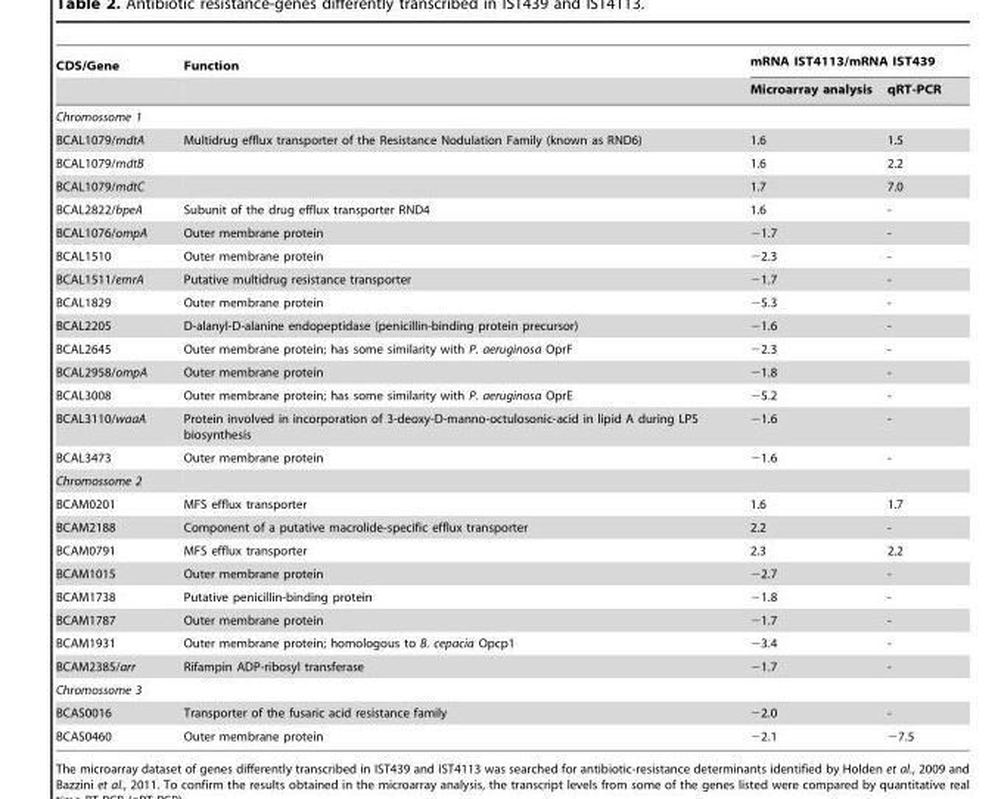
<table><thead><tr><td rowspan="2">CDS/Gene</td><td rowspan="2">Function</td><td colspan="2">mRNA IST4113/mRNA IST439</td></tr><tr><td>Microarray analysis</td><td>qRT-PCR</td></tr></thead><tbody><tr><td colspan="4">Chromossome 1</td></tr><tr><td>BCAL1079/mdtA</td><td>Multidrug efflux transporter of the Resistance Nodulation Family (known as RND6)</td><td>1.6</td><td>1.5</td></tr><tr><td>BCAL1079/mdtB</td><td></td><td>1.6</td><td>2.2</td></tr><tr><td>BCAL1079/mdtC</td><td></td><td>1.7</td><td>7.0</td></tr><tr><td>BCAL2822/bpeA</td><td>Subunit of the drug efflux transporter RND4</td><td>1.6</td><td>-</td></tr><tr><td>BCAL1076/ompA</td><td>Outer membrane protein</td><td>−1.7</td><td>-</td></tr><tr><td>BCAL1510</td><td>Outer membrane protein</td><td>−2.3</td><td>-</td></tr><tr><td>BCAL1511/emrA</td><td>Putative multidrug resistance transporter</td><td>−1.7</td><td>-</td></tr><tr><td>BCAL1829</td><td>Outer membrane protein</td><td>−5.3</td><td>-</td></tr><tr><td>BCAL2205</td><td>D-alanyl-D-alanine endopeptidase (penicillin-binding protein precursor)</td><td>−1.6</td><td>-</td></tr><tr><td>BCAL2645</td><td>Outer membrane protein; has some similarity with P. aeruginosa OprF</td><td>−2.3</td><td>-</td></tr><tr><td>BCAL2958/ompA</td><td>Outer membrane protein</td><td>−1.8</td><td>-</td></tr><tr><td>BCAL3008</td><td>Outer membrane protein; has some similarity with P. aeruginosa OprE</td><td>−5.2</td><td>-</td></tr><tr><td>BCAL3110/waaA</td><td>Protein involved in incorporation of 3-deoxy-D-manno-octulosonic-acid in lipid A during LPS biosynthesis</td><td>−1.6</td><td>-</td></tr><tr><td>BCAL3473</td><td>Outer membrane protein</td><td>−1.6</td><td>-</td></tr><tr><td colspan="4">Chromossome 2</td></tr><tr><td>BCAM0201</td><td>MFS efflux transporter</td><td>1.6</td><td>1.7</td></tr><tr><td>BCAM2188</td><td>Component of a putative macrolide-specific efflux transporter</td><td>2.2</td><td>-</td></tr><tr><td>BCAM0791</td><td>MFS efflux transporter</td><td>2.3</td><td>2.2</td></tr><tr><td>BCAM1015</td><td>Outer membrane protein</td><td>−2.7</td><td>-</td></tr><tr><td>BCAM1738</td><td>Putative penicillin-binding protein</td><td>−1.8</td><td>-</td></tr><tr><td>BCAM1787</td><td>Outer membrane protein</td><td>−1.7</td><td>-</td></tr><tr><td>BCAM1931</td><td>Outer membrane protein; homologous to B. cepacia Opcp1</td><td>−3.4</td><td>-</td></tr><tr><td>BCAM2385/arr</td><td>Rifampin ADP-ribosyl transferase</td><td>−1.7</td><td>-</td></tr><tr><td colspan="4">Chromossome 3</td></tr><tr><td>BCAS0016</td><td>Transporter of the fusaric acid resistance family</td><td>−2.0</td><td>-</td></tr><tr><td>BCAS0460</td><td>Outer membrane protein</td><td>−2.1</td><td>−7.5</td></tr></tbody></table>